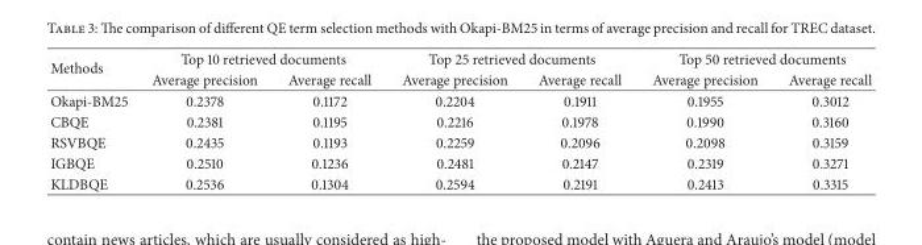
<table><thead><tr><td rowspan="2">Methods</td><td colspan="2">Top 10 retrieved documents</td><td colspan="2">Top 25 retrieved documents</td><td colspan="2">Top 50 retrieved documents</td></tr><tr><td>Average precision</td><td>Average recall</td><td>Average precision</td><td>Average recall</td><td>Average precision</td><td>Average recall</td></tr></thead><tbody><tr><td>Okapi-BM25</td><td>0.2378</td><td>0.1172</td><td>0.2204</td><td>0.1911</td><td>0.1955</td><td>0.3012</td></tr><tr><td>CBQE</td><td>0.2381</td><td>0.1195</td><td>0.2216</td><td>0.1978</td><td>0.1990</td><td>0.3160</td></tr><tr><td>RSVBQE</td><td>0.2435</td><td>0.1193</td><td>0.2259</td><td>0.2096</td><td>0.2098</td><td>0.3159</td></tr><tr><td>IGBQE</td><td>0.2510</td><td>0.1236</td><td>0.2481</td><td>0.2147</td><td>0.2319</td><td>0.3271</td></tr><tr><td>KLDBQE</td><td>0.2536</td><td>0.1304</td><td>0.2594</td><td>0.2191</td><td>0.2413</td><td>0.3315</td></tr></tbody></table>